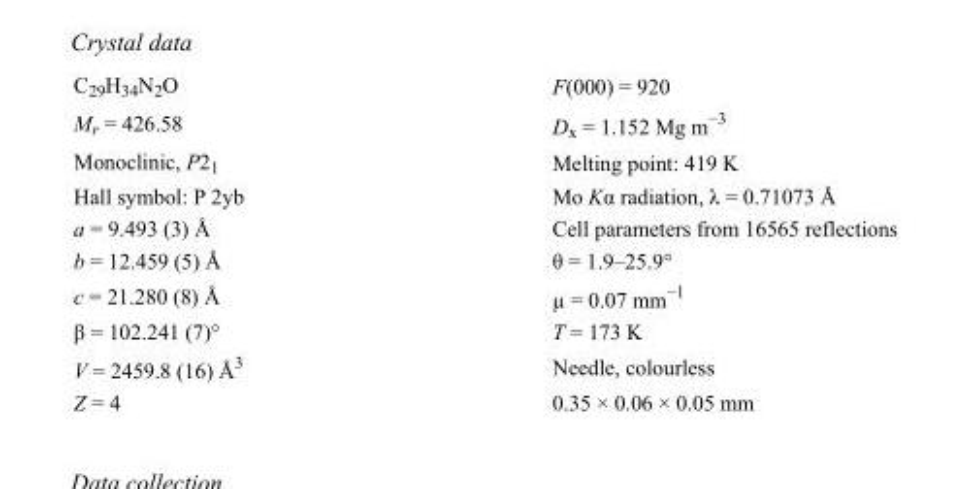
<table><tbody><tr><td>C<sub>29</sub>H<sub>34</sub>N<sub>2</sub>O</td><td>F(000) = 920</td></tr><tr><td>M<sub>r</sub> = 426.58</td><td>D<sub>x</sub> = 1.152 Mg m<sup>−3</sup></td></tr><tr><td>Monoclinic, P2<sub>1</sub></td><td>Melting point: 419 K</td></tr><tr><td>Hall symbol: P 2yb</td><td>Mo Kα radiation, λ = 0.71073 Å</td></tr><tr><td>a = 9.493 (3) Å</td><td>Cell parameters from 16565 reflections</td></tr><tr><td>b = 12.459 (5) Å</td><td>θ = 1.9–25.9°</td></tr><tr><td>c = 21.280 (8) Å</td><td>µ = 0.07 mm<sup>−1</sup></td></tr><tr><td>β = 102.241 (7)°</td><td>T = 173 K</td></tr><tr><td>V = 2459.8 (16) Å<sup>3</sup></td><td>Needle, colourless</td></tr><tr><td>Z = 4</td><td>0.35 × 0.06 × 0.05 mm</td></tr></tbody></table>